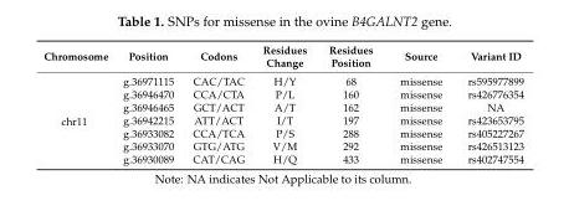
<table><thead><tr><td>Chromosome</td><td>Position</td><td>Codons</td><td>Residues Change</td><td>Residues Position</td><td>Source</td><td>Variant ID</td></tr></thead><tbody><tr><td rowspan="7">chr11</td><td>g.36971115</td><td>CAC/TAC</td><td>H/Y</td><td>68</td><td>missense</td><td>rs595977899</td></tr><tr><td>g.36946470</td><td>CCA/CTA</td><td>P/L</td><td>160</td><td>missense</td><td>rs426776354</td></tr><tr><td>g.36946465</td><td>GCT/ACT</td><td>A/T</td><td>162</td><td>missense</td><td>NA</td></tr><tr><td>g.36942215</td><td>ATT/ACT</td><td>I/T</td><td>197</td><td>missense</td><td>rs423653795</td></tr><tr><td>g.36933082</td><td>CCA/TCA</td><td>P/S</td><td>288</td><td>missense</td><td>rs405227267</td></tr><tr><td>g.36933070</td><td>GTG/ATG</td><td>V/M</td><td>292</td><td>missense</td><td>rs426513123</td></tr><tr><td>g.36930089</td><td>CAT/CAG</td><td>H/Q</td><td>433</td><td>missense</td><td>rs402747554</td></tr></tbody></table>